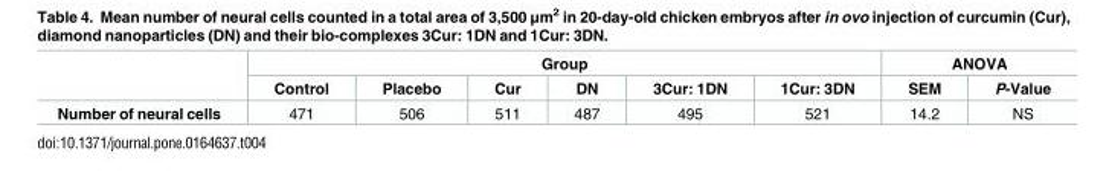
<table><thead><tr><td rowspan="2"></td><td colspan="6">Group</td><td colspan="2">ANOVA</td></tr><tr><td>Control</td><td>Placebo</td><td>Cur</td><td>DN</td><td>3Cur: 1DN</td><td>1Cur: 3DN</td><td>SEM</td><td>P-Value</td></tr></thead><tbody><tr><td>Number of neural cells</td><td>471</td><td>506</td><td>511</td><td>487</td><td>495</td><td>521</td><td>14.2</td><td>NS</td></tr></tbody></table>